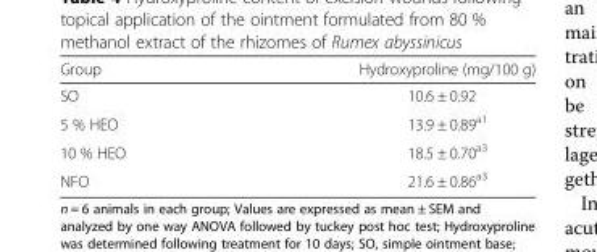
<table><thead><tr><td>Group</td><td>Hydroxyproline (mg/100 g)</td></tr></thead><tbody><tr><td>SO</td><td>10.6 ± 0.92</td></tr><tr><td>5 % HEO</td><td>13.9 ± 0.89<sup>a1</sup></td></tr><tr><td>10 % HEO</td><td>18.5 ± 0.70<sup>a3</sup></td></tr><tr><td>NFO</td><td>21.6 ± 0.86<sup>a3</sup></td></tr></tbody></table>